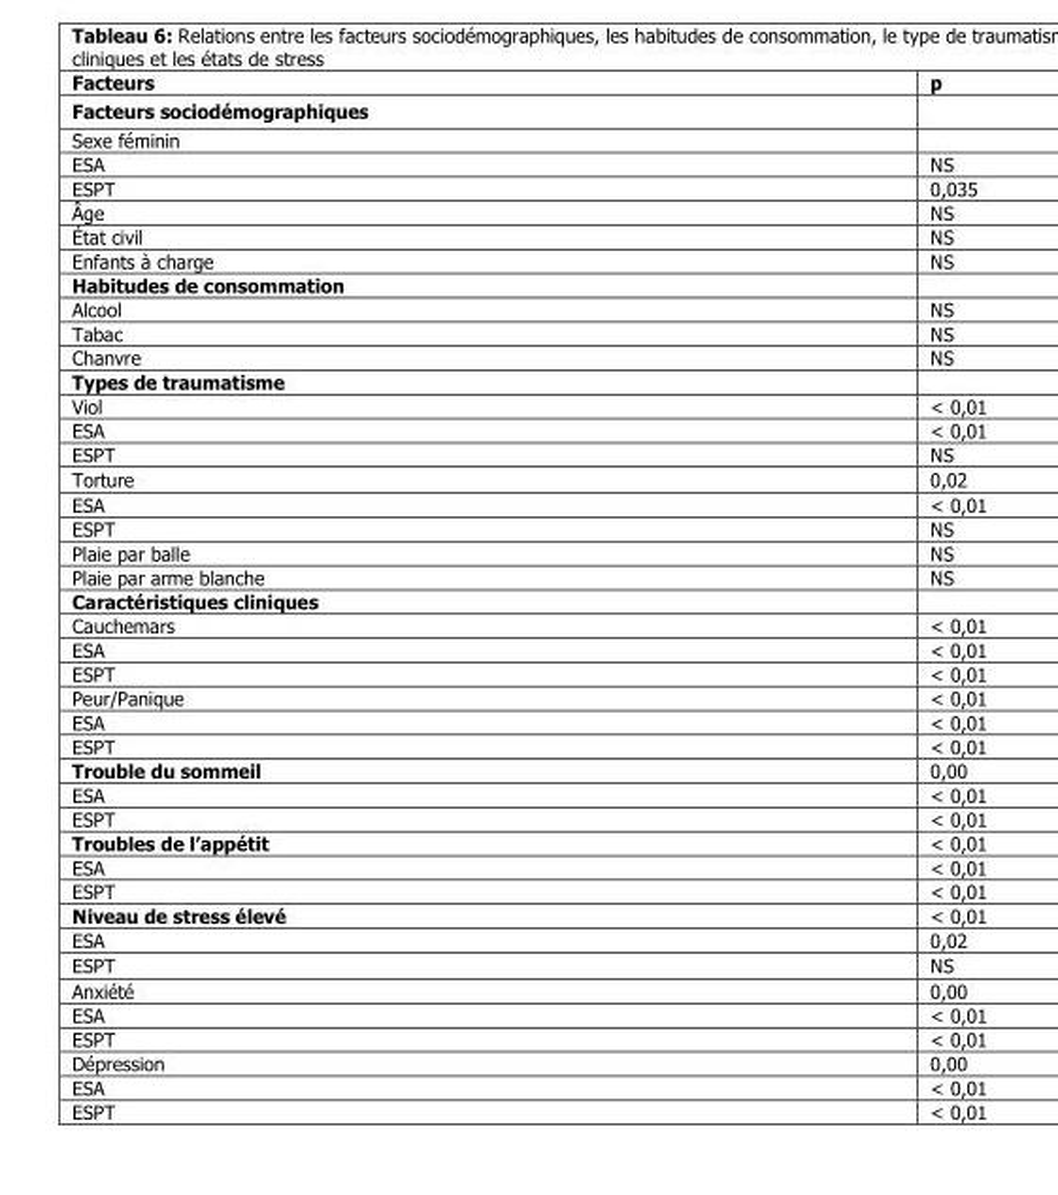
<table><thead><tr><td>Facteurs</td><td>p</td></tr></thead><tbody><tr><td colspan="2">Facteurs sociodémographiques</td></tr><tr><td colspan="2">Sexe féminin</td></tr><tr><td>ESA</td><td>NS</td></tr><tr><td>ESPT</td><td>0,035</td></tr><tr><td>Âge</td><td>NS</td></tr><tr><td>État civil</td><td>NS</td></tr><tr><td>Enfants à charge</td><td>NS</td></tr><tr><td colspan="2">Habitudes de consommation</td></tr><tr><td>Alcool</td><td>NS</td></tr><tr><td>Tabac</td><td>NS</td></tr><tr><td>Chanvre</td><td>NS</td></tr><tr><td colspan="2">Types de traumatisme</td></tr><tr><td>Viol</td><td>&lt; 0,01</td></tr><tr><td>ESA</td><td>&lt; 0,01</td></tr><tr><td>ESPT</td><td>NS</td></tr><tr><td>Torture</td><td>0,02</td></tr><tr><td>ESA</td><td>&lt; 0,01</td></tr><tr><td>ESPT</td><td>NS</td></tr><tr><td>Plaie par balle</td><td>NS</td></tr><tr><td>Plaie par arme blanche</td><td>NS</td></tr><tr><td colspan="2">Caractéristiques cliniques</td></tr><tr><td>Cauchemars</td><td>&lt; 0,01</td></tr><tr><td>ESA</td><td>&lt; 0,01</td></tr><tr><td>ESPT</td><td>&lt; 0,01</td></tr><tr><td>Peur/Panique</td><td>&lt; 0,01</td></tr><tr><td>ESA</td><td>&lt; 0,01</td></tr><tr><td>ESPT</td><td>&lt; 0,01</td></tr><tr><td>Trouble du sommeil</td><td>0,00</td></tr><tr><td>ESA</td><td>&lt; 0,01</td></tr><tr><td>ESPT</td><td>&lt; 0,01</td></tr><tr><td>Troubles de l’appétit</td><td>&lt; 0,01</td></tr><tr><td>ESA</td><td>&lt; 0,01</td></tr><tr><td>ESPT</td><td>&lt; 0,01</td></tr><tr><td>Niveau de stress élevé</td><td>&lt; 0,01</td></tr><tr><td>ESA</td><td>0,02</td></tr><tr><td>ESPT</td><td>NS</td></tr><tr><td>Anxiété</td><td>0,00</td></tr><tr><td>ESA</td><td>&lt; 0,01</td></tr><tr><td>ESPT</td><td>&lt; 0,01</td></tr><tr><td>Dépression</td><td>0,00</td></tr><tr><td>ESA</td><td>&lt; 0,01</td></tr><tr><td>ESPT</td><td>&lt; 0,01</td></tr></tbody></table>